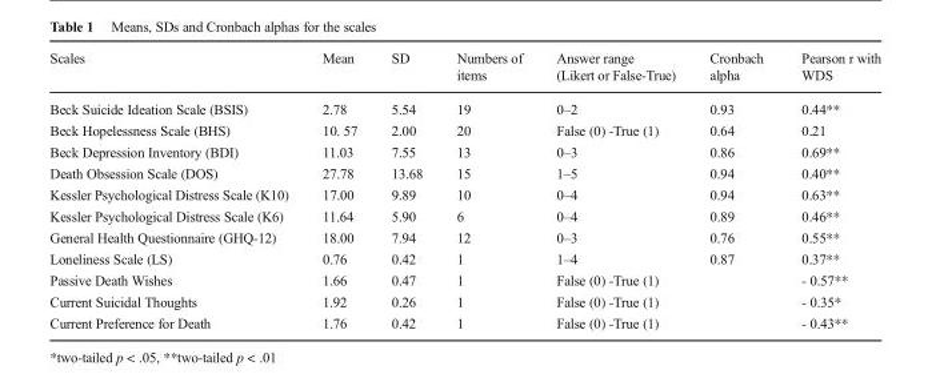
<table><thead><tr><td>Scales</td><td>Mean</td><td>SD</td><td>Numbers of items</td><td>Answer range (Likert or False-True)</td><td>Cronbach alpha</td><td>Pearson r with WDS</td></tr></thead><tbody><tr><td>Beck Suicide Ideation Scale (BSIS)</td><td>2.78</td><td>5.54</td><td>19</td><td>0–2</td><td>0.93</td><td>0.44**</td></tr><tr><td>Beck Hopelessness Scale (BHS)</td><td>10. 57</td><td>2.00</td><td>20</td><td>False (0) -True (1)</td><td>0.64</td><td>0.21</td></tr><tr><td>Beck Depression Inventory (BDI)</td><td>11.03</td><td>7.55</td><td>13</td><td>0–3</td><td>0.86</td><td>0.69**</td></tr><tr><td>Death Obsession Scale (DOS)</td><td>27.78</td><td>13.68</td><td>15</td><td>1–5</td><td>0.94</td><td>0.40**</td></tr><tr><td>Kessler Psychological Distress Scale (K10)</td><td>17.00</td><td>9.89</td><td>10</td><td>0–4</td><td>0.94</td><td>0.63**</td></tr><tr><td>Kessler Psychological Distress Scale (K6)</td><td>11.64</td><td>5.90</td><td>6</td><td>0–4</td><td>0.89</td><td>0.46**</td></tr><tr><td>General Health Questionnaire (GHQ-12)</td><td>18.00</td><td>7.94</td><td>12</td><td>0–3</td><td>0.76</td><td>0.55**</td></tr><tr><td>Loneliness Scale (LS)</td><td>0.76</td><td>0.42</td><td>1</td><td>1–4</td><td>0.87</td><td>0.37**</td></tr><tr><td>Passive Death Wishes</td><td>1.66</td><td>0.47</td><td>1</td><td>False (0) -True (1)</td><td></td><td>- 0.57**</td></tr><tr><td>Current Suicidal Thoughts</td><td>1.92</td><td>0.26</td><td>1</td><td>False (0) -True (1)</td><td></td><td>- 0.35*</td></tr><tr><td>Current Preference for Death</td><td>1.76</td><td>0.42</td><td>1</td><td>False (0) -True (1)</td><td></td><td>- 0.43**</td></tr></tbody></table>